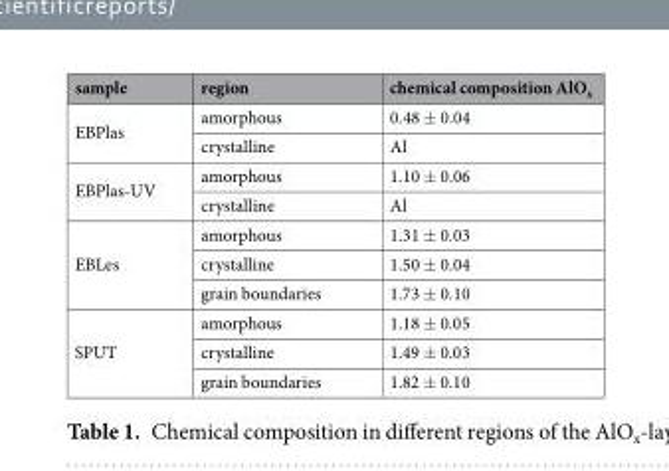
<table><thead><tr><td>sample</td><td>region</td><td>chemical composition AlO<sub>x</sub></td></tr></thead><tbody><tr><td rowspan="2">EBPlas</td><td>amorphous</td><td>0.48 ± 0.04</td></tr><tr><td>crystalline</td><td>Al</td></tr><tr><td rowspan="2">EBPlas-UV</td><td>amorphous</td><td>1.10 ± 0.06</td></tr><tr><td>crystalline</td><td>Al</td></tr><tr><td rowspan="3">EBLes</td><td>amorphous</td><td>1.31 ± 0.03</td></tr><tr><td>crystalline</td><td>1.50 ± 0.04</td></tr><tr><td>grain boundaries</td><td>1.73 ± 0.10</td></tr><tr><td rowspan="3">SPUT</td><td>amorphous</td><td>1.18 ± 0.05</td></tr><tr><td>crystalline</td><td>1.49 ± 0.03</td></tr><tr><td>grain boundaries</td><td>1.82 ± 0.10</td></tr></tbody></table>